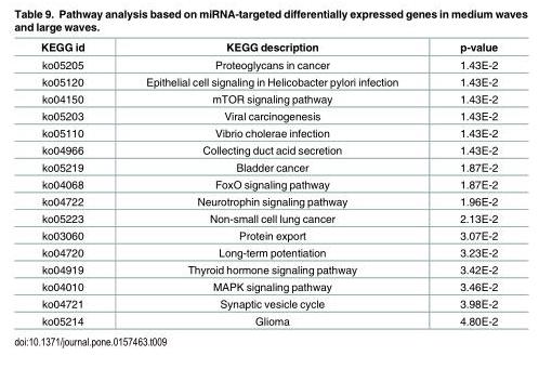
<table><thead><tr><td>KEGG id</td><td>KEGG description</td><td>p-value</td></tr></thead><tbody><tr><td>ko05205</td><td>Proteoglycans in cancer</td><td>1.43E-2</td></tr><tr><td>ko05120</td><td>Epithelial cell signaling in Helicobacter pylori infection</td><td>1.43E-2</td></tr><tr><td>ko04150</td><td>mTOR signaling pathway</td><td>1.43E-2</td></tr><tr><td>ko05203</td><td>Viral carcinogenesis</td><td>1.43E-2</td></tr><tr><td>ko05110</td><td>Vibrio cholerae infection</td><td>1.43E-2</td></tr><tr><td>ko04966</td><td>Collecting duct acid secretion</td><td>1.43E-2</td></tr><tr><td>ko05219</td><td>Bladder cancer</td><td>1.87E-2</td></tr><tr><td>ko04068</td><td>FoxO signaling pathway</td><td>1.87E-2</td></tr><tr><td>ko04722</td><td>Neurotrophin signaling pathway</td><td>1.96E-2</td></tr><tr><td>ko05223</td><td>Non-small cell lung cancer</td><td>2.13E-2</td></tr><tr><td>ko03060</td><td>Protein export</td><td>3.07E-2</td></tr><tr><td>ko04720</td><td>Long-term potentiation</td><td>3.23E-2</td></tr><tr><td>ko04919</td><td>Thyroid hormone signaling pathway</td><td>3.42E-2</td></tr><tr><td>ko04010</td><td>MAPK signaling pathway</td><td>3.46E-2</td></tr><tr><td>ko04721</td><td>Synaptic vesicle cycle</td><td>3.98E-2</td></tr><tr><td>ko05214</td><td>Glioma</td><td>4.80E-2</td></tr></tbody></table>